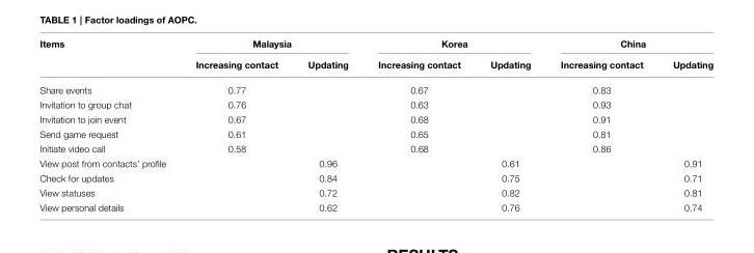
<table><thead><tr><td rowspan="2">Items</td><td colspan="2">Malaysia</td><td colspan="2">Korea</td><td colspan="2">China</td></tr><tr><td>Increasing contact</td><td>Updating</td><td>Increasing contact</td><td>Updating</td><td>Increasing contact</td><td>Updating</td></tr></thead><tbody><tr><td>Share events</td><td>0.77</td><td></td><td>0.67</td><td></td><td>0.83</td><td></td></tr><tr><td>Invitation to group chat</td><td>0.76</td><td></td><td>0.63</td><td></td><td>0.93</td><td></td></tr><tr><td>Invitation to join event</td><td>0.67</td><td></td><td>0.68</td><td></td><td>0.91</td><td></td></tr><tr><td>Send game request</td><td>0.61</td><td></td><td>0.65</td><td></td><td>0.81</td><td></td></tr><tr><td>Initiate video call</td><td>0.58</td><td></td><td>0.68</td><td></td><td>0.86</td><td></td></tr><tr><td>View post from contacts’ profile</td><td></td><td>0.96</td><td></td><td>0.61</td><td></td><td>0.91</td></tr><tr><td>Check for updates</td><td></td><td>0.84</td><td></td><td>0.75</td><td></td><td>0.71</td></tr><tr><td>View statuses</td><td></td><td>0.72</td><td></td><td>0.82</td><td></td><td>0.81</td></tr><tr><td>View personal details</td><td></td><td>0.62</td><td></td><td>0.76</td><td></td><td>0.74</td></tr></tbody></table>